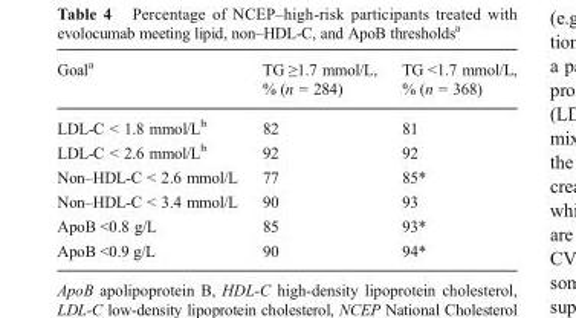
<table><thead><tr><td>Goal<sup>a</sup></td><td>TG ≥1.7 mmol/L, % (n = 284)</td><td>TG &lt;1.7 mmol/L, % (n = 368)</td></tr></thead><tbody><tr><td>LDL-C &lt; 1.8 mmol/L<sup>b</sup></td><td>82</td><td>81</td></tr><tr><td>LDL-C &lt; 2.6 mmol/L<sup>b</sup></td><td>92</td><td>92</td></tr><tr><td>Non–HDL-C &lt; 2.6 mmol/L</td><td>77</td><td>85*</td></tr><tr><td>Non–HDL-C &lt; 3.4 mmol/L</td><td>90</td><td>93</td></tr><tr><td>ApoB &lt;0.8 g/L</td><td>85</td><td>93*</td></tr><tr><td>ApoB &lt;0.9 g/L</td><td>90</td><td>94*</td></tr></tbody></table>